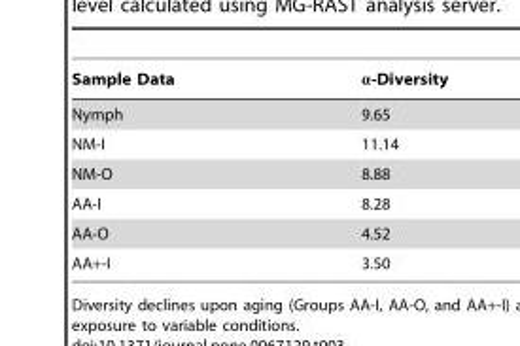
<table><thead><tr><td>Sample Data</td><td>α-Diversity</td></tr></thead><tbody><tr><td>Nymph</td><td>9.65</td></tr><tr><td>NM-I</td><td>11.14</td></tr><tr><td>NM-O</td><td>8.88</td></tr><tr><td>AA-I</td><td>8.28</td></tr><tr><td>AA-O</td><td>4.52</td></tr><tr><td>AA+-I</td><td>3.50</td></tr></tbody></table>